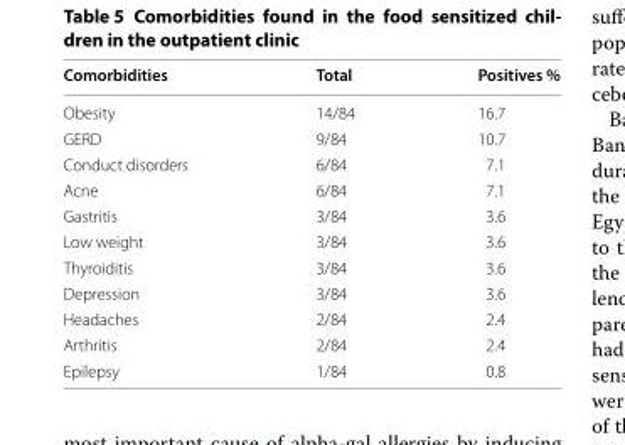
<table><thead><tr><td>Comorbidities</td><td>Total</td><td>Positives %</td></tr></thead><tbody><tr><td>Obesity</td><td>14/84</td><td>16.7</td></tr><tr><td>GERD</td><td>9/84</td><td>10.7</td></tr><tr><td>Conduct disorders</td><td>6/84</td><td>7.1</td></tr><tr><td>Acne</td><td>6/84</td><td>7.1</td></tr><tr><td>Gastritis</td><td>3/84</td><td>3.6</td></tr><tr><td>Low weight</td><td>3/84</td><td>3.6</td></tr><tr><td>Thyroiditis</td><td>3/84</td><td>3.6</td></tr><tr><td>Depression</td><td>3/84</td><td>3.6</td></tr><tr><td>Headaches</td><td>2/84</td><td>2.4</td></tr><tr><td>Arthritis</td><td>2/84</td><td>2.4</td></tr><tr><td>Epilepsy</td><td>1/84</td><td>0.8</td></tr></tbody></table>